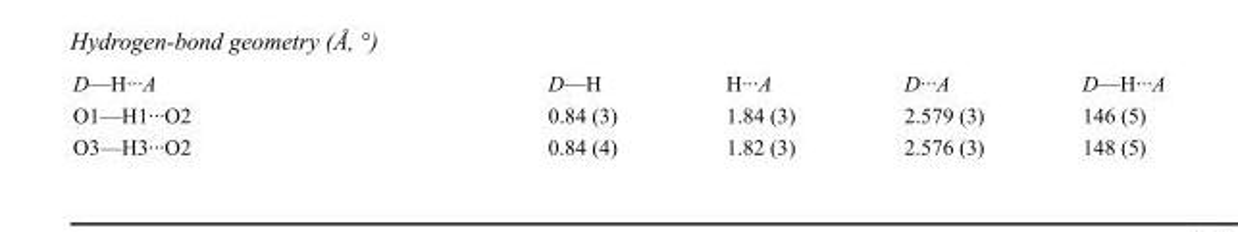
<table><tbody><tr><td>D—H···A</td><td>D—H</td><td>H···A</td><td>D···A</td><td>D—H···A</td></tr><tr><td>O1—H1···O2</td><td>0.84 (3)</td><td>1.84 (3)</td><td>2.579 (3)</td><td>146 (5)</td></tr><tr><td>O3—H3···O2</td><td>0.84 (4)</td><td>1.82 (3)</td><td>2.576 (3)</td><td>148 (5)</td></tr></tbody></table>